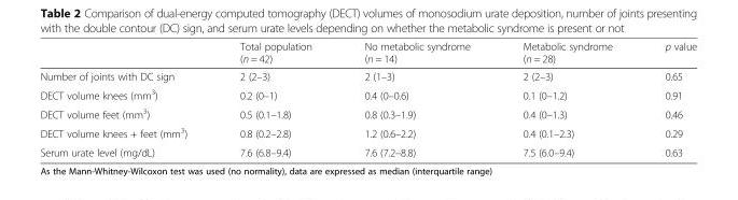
<table><thead><tr><td></td><td>Total population (n = 42)</td><td>No metabolic syndrome (n = 14)</td><td>Metabolic syndrome (n = 28)</td><td>p value</td></tr></thead><tbody><tr><td>Number of joints with DC sign</td><td>2 (2–3)</td><td>2 (1–3)</td><td>2 (2–3)</td><td>0.65</td></tr><tr><td>DECT volume knees (mm<sup>3</sup>)</td><td>0.2 (0–1)</td><td>0.4 (0–0.6)</td><td>0.1 (0–1.2)</td><td>0.91</td></tr><tr><td>DECT volume feet (mm<sup>3</sup>)</td><td>0.5 (0.1–1.8)</td><td>0.8 (0.3–1.9)</td><td>0.4 (0–1.3)</td><td>0.46</td></tr><tr><td>DECT volume knees + feet (mm<sup>3</sup>)</td><td>0.8 (0.2–2.8)</td><td>1.2 (0.6–2.2)</td><td>0.4 (0.1–2.3)</td><td>0.29</td></tr><tr><td>Serum urate level (mg/dL)</td><td>7.6 (6.8–9.4)</td><td>7.6 (7.2–8.8)</td><td>7.5 (6.0–9.4)</td><td>0.63</td></tr></tbody></table>